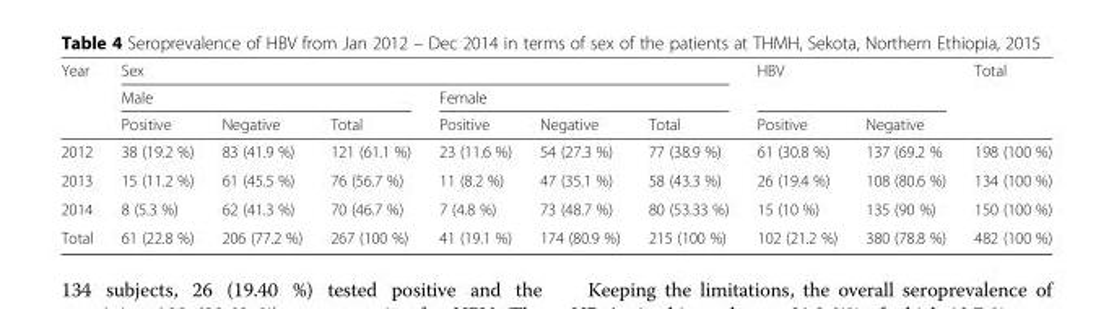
<table><thead><tr><td rowspan="3">Year</td><td colspan="6">Sex</td><td rowspan="2" colspan="2">HBV</td><td rowspan="3">Total</td></tr><tr><td colspan="3">Male</td><td colspan="3">Female</td></tr><tr><td>Positive</td><td>Negative</td><td>Total</td><td>Positive</td><td>Negative</td><td>Total</td><td>Positive</td><td>Negative</td></tr></thead><tbody><tr><td>2012</td><td>38 (19.2 %)</td><td>83 (41.9 %)</td><td>121 (61.1 %)</td><td>23 (11.6 %)</td><td>54 (27.3 %)</td><td>77 (38.9 %)</td><td>61 (30.8 %)</td><td>137 (69.2 %</td><td>198 (100 %)</td></tr><tr><td>2013</td><td>15 (11.2 %)</td><td>61 (45.5 %)</td><td>76 (56.7 %)</td><td>11 (8.2 %)</td><td>47 (35.1 %)</td><td>58 (43.3 %)</td><td>26 (19.4 %)</td><td>108 (80.6 %)</td><td>134 (100 %)</td></tr><tr><td>2014</td><td>8 (5.3 %)</td><td>62 (41.3 %)</td><td>70 (46.7 %)</td><td>7 (4.8 %)</td><td>73 (48.7 %)</td><td>80 (53.33 %)</td><td>15 (10 %)</td><td>135 (90 %)</td><td>150 (100 %)</td></tr><tr><td>Total</td><td>61 (22.8 %)</td><td>206 (77.2 %)</td><td>267 (100 %)</td><td>41 (19.1 %)</td><td>174 (80.9 %)</td><td>215 (100 %)</td><td>102 (21.2 %)</td><td>380 (78.8 %)</td><td>482 (100 %)</td></tr></tbody></table>